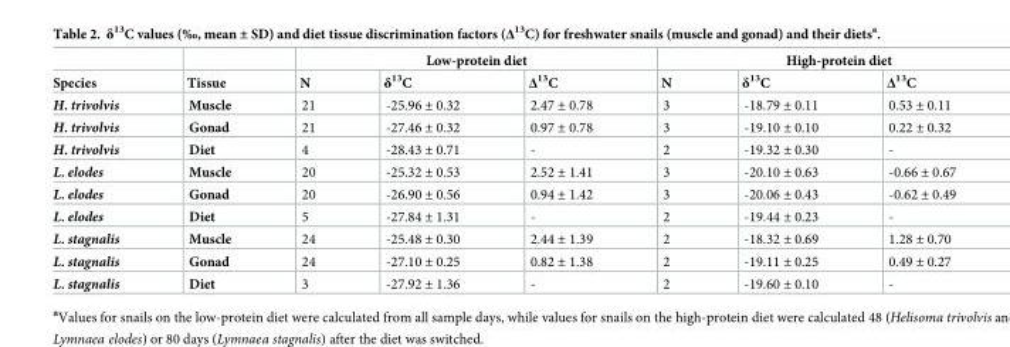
<table><thead><tr><td rowspan="2">Species</td><td rowspan="2">Tissue</td><td colspan="3">Low-protein diet</td><td colspan="3">High-protein diet</td></tr><tr><td>N</td><td>δ<sup>13</sup>C</td><td>Δ<sup>13</sup>C</td><td>N</td><td>δ<sup>13</sup>C</td><td>Δ<sup>13</sup>C</td></tr></thead><tbody><tr><td>H. trivolvis</td><td>Muscle</td><td>21</td><td>-25.96 ± 0.32</td><td>2.47 ± 0.78</td><td>3</td><td>-18.79 ± 0.11</td><td>0.53 ± 0.11</td></tr><tr><td>H. trivolvis</td><td>Gonad</td><td>21</td><td>-27.46 ± 0.32</td><td>0.97 ± 0.78</td><td>3</td><td>-19.10 ± 0.10</td><td>0.22 ± 0.32</td></tr><tr><td>H. trivolvis</td><td>Diet</td><td>4</td><td>-28.43 ± 0.71</td><td>-</td><td>2</td><td>-19.32 ± 0.30</td><td>-</td></tr><tr><td>L. elodes</td><td>Muscle</td><td>20</td><td>-25.32 ± 0.53</td><td>2.52 ± 1.41</td><td>3</td><td>-20.10 ± 0.63</td><td>-0.66 ± 0.67</td></tr><tr><td>L. elodes</td><td>Gonad</td><td>20</td><td>-26.90 ± 0.56</td><td>0.94 ± 1.42</td><td>3</td><td>-20.06 ± 0.43</td><td>-0.62 ± 0.49</td></tr><tr><td>L. elodes</td><td>Diet</td><td>5</td><td>-27.84 ± 1.31</td><td>-</td><td>2</td><td>-19.44 ± 0.23</td><td>-</td></tr><tr><td>L. stagnalis</td><td>Muscle</td><td>24</td><td>-25.48 ± 0.30</td><td>2.44 ± 1.39</td><td>2</td><td>-18.32 ± 0.69</td><td>1.28 ± 0.70</td></tr><tr><td>L. stagnalis</td><td>Gonad</td><td>24</td><td>-27.10 ± 0.25</td><td>0.82 ± 1.38</td><td>2</td><td>-19.11 ± 0.25</td><td>0.49 ± 0.27</td></tr><tr><td>L. stagnalis</td><td>Diet</td><td>3</td><td>-27.92 ± 1.36</td><td>-</td><td>2</td><td>-19.60 ± 0.10</td><td>-</td></tr></tbody></table>